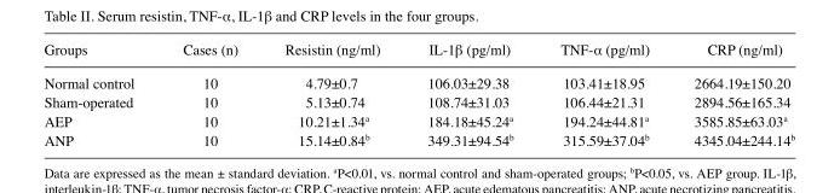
<table><thead><tr><td>Groups</td><td>Cases (n)</td><td>Resistin (ng/ml)</td><td>IL‑1β (pg/ml)</td><td>TNF‑α (pg/ml)</td><td>CRP (ng/ml)</td></tr></thead><tbody><tr><td>Normal control</td><td>10</td><td>4.79±0.7</td><td>106.03±29.38</td><td>103.41±18.95</td><td>2664.19±150.20</td></tr><tr><td>Sham‑operated</td><td>10</td><td>5.13±0.74</td><td>108.74±31.03</td><td>106.44±21.31</td><td>2894.56±165.34</td></tr><tr><td>AEP</td><td>10</td><td>10.21±1.34<sup>a</sup></td><td>184.18±45.24<sup>a</sup></td><td>194.24±44.81<sup>a</sup></td><td>3585.85±63.03<sup>a</sup></td></tr><tr><td>ANP</td><td>10</td><td>15.14±0.84<sup>b</sup></td><td>349.31±94.54<sup>b</sup></td><td>315.59±37.04<sup>b</sup></td><td>4345.04±244.14<sup>b</sup></td></tr></tbody></table>